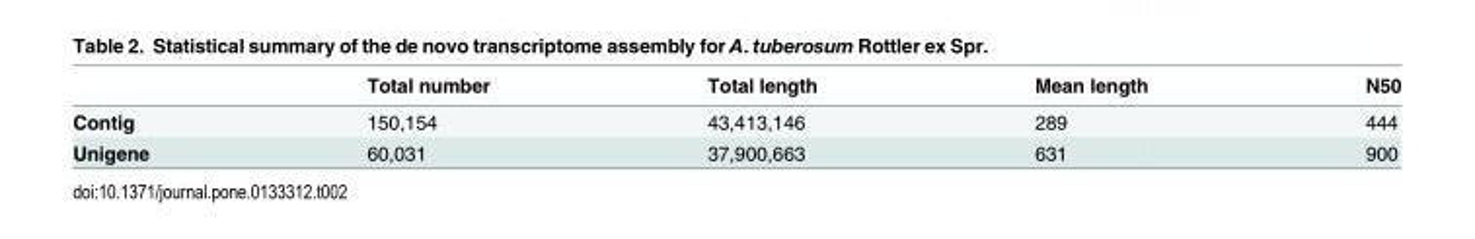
<table><thead><tr><td></td><td>Total number</td><td>Total length</td><td>Mean length</td><td>N50</td></tr></thead><tbody><tr><td>Contig</td><td>150,154</td><td>43,413,146</td><td>289</td><td>444</td></tr><tr><td>Unigene</td><td>60,031</td><td>37,900,663</td><td>631</td><td>900</td></tr></tbody></table>